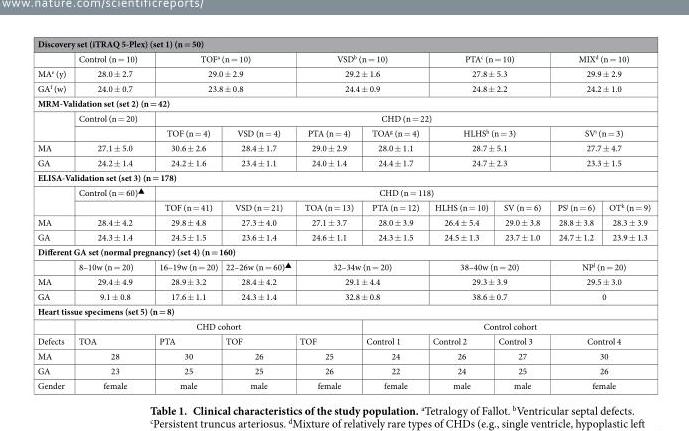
<table><thead><tr><td colspan="10">Discovery set (iTRAQ 5-Plex) (set 1) (n = 50)</td></tr></thead><tbody><tr><td></td><td>Control (n = 10)</td><td colspan="2">TOF<sup>a</sup> (n = 10)</td><td colspan="2">VSD<sup>b</sup> (n = 10)</td><td colspan="2">PTA<sup>c</sup> (n = 10)</td><td colspan="2">MIX<sup>d</sup> (n = 10)</td></tr><tr><td>MA<sup>e</sup> (y)</td><td>28.0 ± 2.7</td><td colspan="2">29.0 ± 2.9</td><td colspan="2">29.2 ± 1.6</td><td colspan="2">27.8 ± 5.3</td><td colspan="2">29.9 ± 2.9</td></tr><tr><td>GA<sup>f</sup> (w)</td><td>24.0 ± 0.7</td><td colspan="2">23.8 ± 0.8</td><td colspan="2">24.4 ± 0.9</td><td colspan="2">24.8 ± 2.2</td><td colspan="2">24.2 ± 1.0</td></tr><tr><td colspan="10">MRM-Validation set (set 2) (n = 42)</td></tr><tr><td rowspan="2"></td><td>Control (n = 20)</td><td colspan="8">CHD (n = 22)</td></tr><tr><td></td><td>TOF (n = 4)</td><td>VSD (n = 4)</td><td>PTA (n = 4)</td><td>TOA<sup>g</sup> (n = 4)</td><td colspan="2">HLHS<sup>h</sup> (n = 3)</td><td colspan="2">SV<sup>i</sup> (n = 3)</td></tr><tr><td>MA</td><td>27.1 ± 5.0</td><td>30.6 ± 2.6</td><td>28.4 ± 1.7</td><td>29.0 ± 2.9</td><td>28.0 ± 1.1</td><td colspan="2">28.7 ± 5.1</td><td colspan="2">27.7 ± 4.7</td></tr><tr><td>GA</td><td>24.2 ± 1.4</td><td>24.2 ± 1.6</td><td>23.4 ± 1.1</td><td>24.0 ± 1.4</td><td>24.4 ± 1.7</td><td colspan="2">24.7 ± 2.3</td><td colspan="2">23.3 ± 1.5</td></tr><tr><td colspan="10">ELISA-Validation set (set 3) (n = 178)</td></tr><tr><td rowspan="2"></td><td>Control (n = 60)<sup>▲</sup></td><td colspan="8">CHD (n = 118)</td></tr><tr><td></td><td>TOF (n = 41)</td><td>VSD (n = 21)</td><td>TOA (n = 13)</td><td>PTA (n = 12)</td><td>HLHS (n = 10)</td><td>SV (n = 6)</td><td>PS<sup>j</sup> (n = 6)</td><td>OT<sup>k</sup> (n = 9)</td></tr><tr><td>MA</td><td>28.4 ± 4.2</td><td>29.8 ± 4.8</td><td>27.3 ± 4.0</td><td>27.1 ± 3.7</td><td>28.0 ± 3.9</td><td>26.4 ± 5.4</td><td>29.0 ± 3.8</td><td>28.8 ± 3.8</td><td>28.3 ± 3.9</td></tr><tr><td>GA</td><td>24.3 ± 1.4</td><td>24.5 ± 1.5</td><td>23.6 ± 1.4</td><td>24.6 ± 1.1</td><td>24.3 ± 1.5</td><td>24.5 ± 1.3</td><td>23.7 ± 1.0</td><td>24.7 ± 1.2</td><td>23.9 ± 1.3</td></tr><tr><td colspan="10">Different GA set (normal pregnancy) (set 4) (n = 160)</td></tr><tr><td></td><td>8–10w (n = 20)</td><td>16–19w (n = 20)</td><td>22–26w (n = 60)<sup>▲</sup></td><td colspan="2">32–34w (n = 20)</td><td colspan="2">38–40w (n = 20)</td><td colspan="2">NP<sup>l</sup> (n = 20)</td></tr><tr><td>MA</td><td>29.4 ± 4.9</td><td>28.9 ± 3.2</td><td>28.4 ± 4.2</td><td colspan="2">29.1 ± 4.4</td><td colspan="2">29.3 ± 3.9</td><td colspan="2">29.5 ± 3.0</td></tr><tr><td>GA</td><td>9.1 ± 0.8</td><td>17.6 ± 1.1</td><td>24.3 ± 1.4</td><td colspan="2">32.8 ± 0.8</td><td colspan="2">38.6 ± 0.7</td><td colspan="2">0</td></tr><tr><td colspan="10">Heart tissue specimens (set 5) (n = 8)</td></tr><tr><td></td><td colspan="4">CHD cohort</td><td colspan="5">Control cohort</td></tr><tr><td>Defects</td><td>TOA</td><td>PTA</td><td>TOF</td><td>TOF</td><td>Control 1</td><td>Control 2</td><td>Control 3</td><td colspan="2">Control 4</td></tr><tr><td>MA</td><td>28</td><td>30</td><td>26</td><td>25</td><td>24</td><td>26</td><td>27</td><td colspan="2">30</td></tr><tr><td>GA</td><td>23</td><td>25</td><td>25</td><td>26</td><td>22</td><td>24</td><td>25</td><td colspan="2">26</td></tr><tr><td>Gender</td><td>female</td><td>male</td><td>male</td><td>female</td><td>female</td><td>male</td><td>male</td><td colspan="2">female</td></tr></tbody></table>